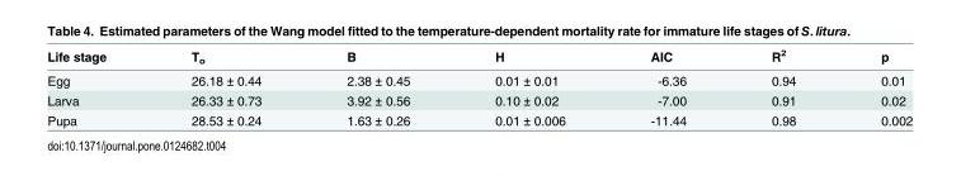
<table><thead><tr><td>Life stage</td><td>T<sub>o</sub></td><td>B</td><td>H</td><td>AIC</td><td>R<sup>2</sup></td><td>p</td></tr></thead><tbody><tr><td>Egg</td><td>26.18 ± 0.44</td><td>2.38 ± 0.45</td><td>0.01 ± 0.01</td><td>-6.36</td><td>0.94</td><td>0.01</td></tr><tr><td>Larva</td><td>26.33 ± 0.73</td><td>3.92 ± 0.56</td><td>0.10 ± 0.02</td><td>-7.00</td><td>0.91</td><td>0.02</td></tr><tr><td>Pupa</td><td>28.53 ± 0.24</td><td>1.63 ± 0.26</td><td>0.01 ± 0.006</td><td>-11.44</td><td>0.98</td><td>0.002</td></tr></tbody></table>